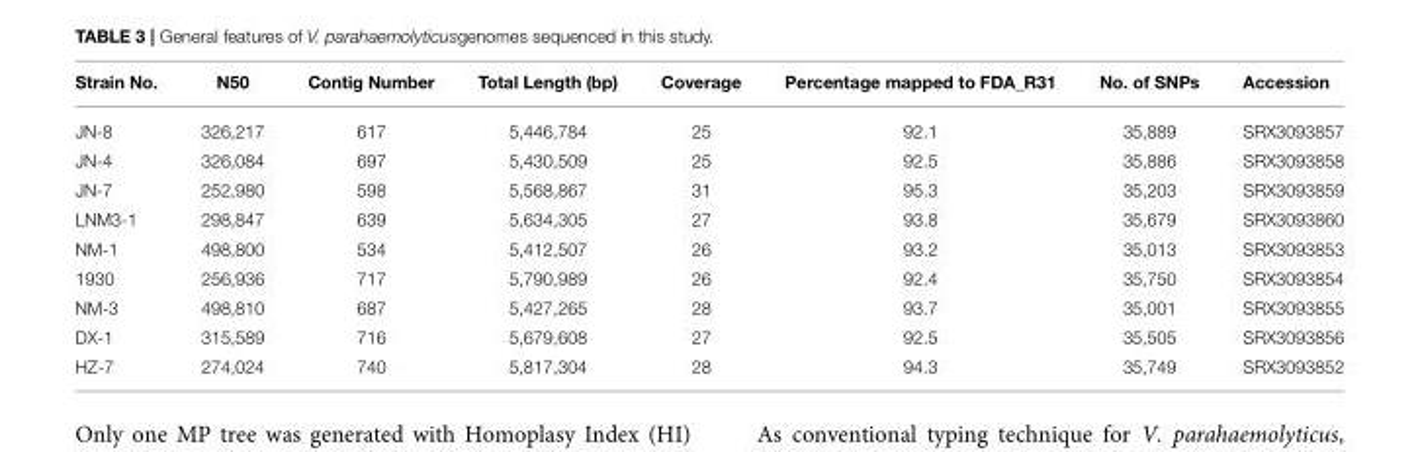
<table><thead><tr><td>Strain No.</td><td>N50</td><td>Contig Number</td><td>Total Length (bp)</td><td>Coverage</td><td>Percentage mapped to FDA_R31</td><td>No. of SNPs</td><td>Accession</td></tr></thead><tbody><tr><td>JN-8</td><td>326,217</td><td>617</td><td>5,446,784</td><td>25</td><td>92.1</td><td>35,889</td><td>SRX3093857</td></tr><tr><td>JN-4</td><td>326,084</td><td>697</td><td>5,430,509</td><td>25</td><td>92.5</td><td>35,886</td><td>SRX3093858</td></tr><tr><td>JN-7</td><td>252,980</td><td>598</td><td>5,568,867</td><td>31</td><td>95.3</td><td>35,203</td><td>SRX3093859</td></tr><tr><td>LNM3-1</td><td>298,847</td><td>639</td><td>5,634,305</td><td>27</td><td>93.8</td><td>35,679</td><td>SRX3093860</td></tr><tr><td>NM-1</td><td>498,800</td><td>534</td><td>5,412,507</td><td>26</td><td>93.2</td><td>35,013</td><td>SRX3093853</td></tr><tr><td>1930</td><td>256,936</td><td>717</td><td>5,790,989</td><td>26</td><td>92.4</td><td>35,750</td><td>SRX3093854</td></tr><tr><td>NM-3</td><td>498,810</td><td>687</td><td>5,427,265</td><td>28</td><td>93.7</td><td>35,001</td><td>SRX3093855</td></tr><tr><td>DX-1</td><td>315,589</td><td>716</td><td>5,679,608</td><td>27</td><td>92.5</td><td>35,505</td><td>SRX3093856</td></tr><tr><td>HZ-7</td><td>274,024</td><td>740</td><td>5,817,304</td><td>28</td><td>94.3</td><td>35,749</td><td>SRX3093852</td></tr></tbody></table>